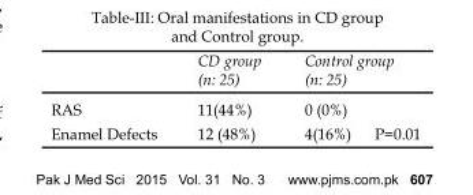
<table><thead><tr><td rowspan="3">RAS Enamel Defects</td><td rowspan="3">CD group (n: 25) 11(44%) 12 (48%)</td><td rowspan="2" colspan="2">Control group (n: 25) 0 (0%)</td></tr><tr></tr><tr><td>4(16%)</td><td>P=0.01</td></tr></thead><tbody></tbody></table>